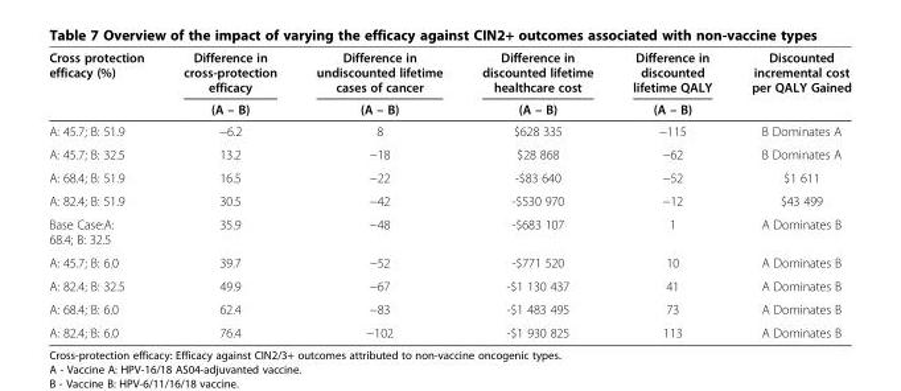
<table><thead><tr><td rowspan="2">Cross protection efficacy (%)</td><td rowspan="2">Difference in cross-protection efficacy (A – B)</td><td rowspan="2">Difference in undiscounted lifetime cases of cancer (A – B)</td><td rowspan="2">Difference in discounted lifetime healthcare cost (A – B)</td><td rowspan="2">Difference in discounted lifetime QALY (A – B)</td><td rowspan="2">Discounted incremental cost per QALY Gained</td></tr><tr></tr></thead><tbody><tr><td>A: 45.7; B: 51.9</td><td>−6.2</td><td>8</td><td>$628 335</td><td>−115</td><td>B Dominates A</td></tr><tr><td>A: 45.7; B: 32.5</td><td>13.2</td><td>−18</td><td>$28 868</td><td>−62</td><td>B Dominates A</td></tr><tr><td>A: 68.4; B: 51.9</td><td>16.5</td><td>−22</td><td>-$83 640</td><td>−52</td><td>$1 611</td></tr><tr><td>A: 82.4; B: 51.9</td><td>30.5</td><td>−42</td><td>-$530 970</td><td>−12</td><td>$43 499</td></tr><tr><td>Base Case:A: 68.4; B: 32.5</td><td>35.9</td><td>−48</td><td>-$683 107</td><td>1</td><td>A Dominates B</td></tr><tr><td>A: 45.7; B: 6.0</td><td>39.7</td><td>−52</td><td>-$771 520</td><td>10</td><td>A Dominates B</td></tr><tr><td>A: 82.4; B: 32.5</td><td>49.9</td><td>−67</td><td>-$1 130 437</td><td>41</td><td>A Dominates B</td></tr><tr><td>A: 68.4; B: 6.0</td><td>62.4</td><td>−83</td><td>-$1 483 495</td><td>73</td><td>A Dominates B</td></tr><tr><td>A: 82.4; B: 6.0</td><td>76.4</td><td>−102</td><td>-$1 930 825</td><td>113</td><td>A Dominates B</td></tr></tbody></table>